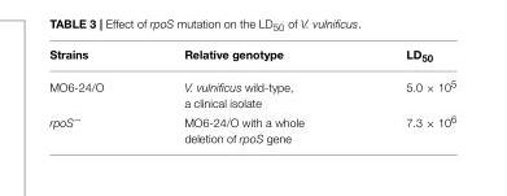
<table><thead><tr><td>Strains</td><td>Relative genotype</td><td>LD<sub>50</sub></td></tr></thead><tbody><tr><td>MO6-24/O</td><td>V. vulnificus wild-type, a clinical isolate</td><td>5.0 × 10<sup>5</sup></td></tr><tr><td>rpoS<sup>−</sup></td><td>MO6-24/O with a whole deletion of rpoS gene</td><td>7.3 × 10<sup>6</sup></td></tr></tbody></table>